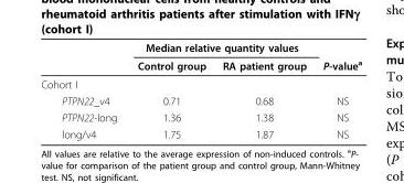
<table><thead><tr><td rowspan="2"></td><td colspan="2">Median relative quantity values</td><td rowspan="2">P-value<sup>a</sup></td></tr><tr><td>Control group</td><td>RA patient group</td></tr></thead><tbody><tr><td colspan="4">Cohort I</td></tr><tr><td>PTPN22_v4</td><td>0.71</td><td>0.68</td><td>NS</td></tr><tr><td>PTPN22-long</td><td>1.36</td><td>1.38</td><td>NS</td></tr><tr><td>long/v4</td><td>1.75</td><td>1.87</td><td>NS</td></tr></tbody></table>